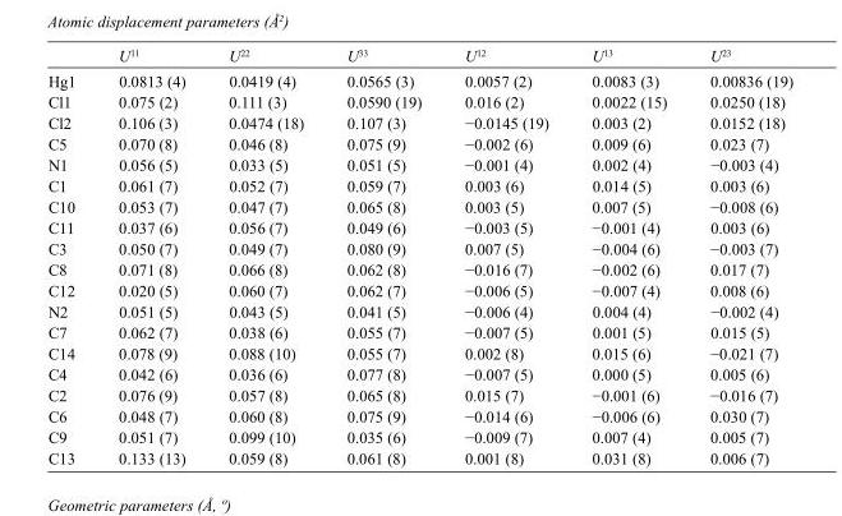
<table><thead><tr><td></td><td>U<sup>11</sup></td><td>U<sup>22</sup></td><td>U<sup>33</sup></td><td>U<sup>12</sup></td><td>U<sup>13</sup></td><td>U<sup>23</sup></td></tr></thead><tbody><tr><td>Hg1</td><td>0.0813 (4)</td><td>0.0419 (4)</td><td>0.0565 (3)</td><td>0.0057 (2)</td><td>0.0083 (3)</td><td>0.00836 (19)</td></tr><tr><td>Cl1</td><td>0.075 (2)</td><td>0.111 (3)</td><td>0.0590 (19)</td><td>0.016 (2)</td><td>0.0022 (15)</td><td>0.0250 (18)</td></tr><tr><td>Cl2</td><td>0.106 (3)</td><td>0.0474 (18)</td><td>0.107 (3)</td><td>−0.0145 (19)</td><td>0.003 (2)</td><td>0.0152 (18)</td></tr><tr><td>C5</td><td>0.070 (8)</td><td>0.046 (8)</td><td>0.075 (9)</td><td>−0.002 (6)</td><td>0.009 (6)</td><td>0.023 (7)</td></tr><tr><td>N1</td><td>0.056 (5)</td><td>0.033 (5)</td><td>0.051 (5)</td><td>−0.001 (4)</td><td>0.002 (4)</td><td>−0.003 (4)</td></tr><tr><td>C1</td><td>0.061 (7)</td><td>0.052 (7)</td><td>0.059 (7)</td><td>0.003 (6)</td><td>0.014 (5)</td><td>0.003 (6)</td></tr><tr><td>C10</td><td>0.053 (7)</td><td>0.047 (7)</td><td>0.065 (8)</td><td>0.003 (5)</td><td>0.007 (5)</td><td>−0.008 (6)</td></tr><tr><td>C11</td><td>0.037 (6)</td><td>0.056 (7)</td><td>0.049 (6)</td><td>−0.003 (5)</td><td>−0.001 (4)</td><td>0.003 (6)</td></tr><tr><td>C3</td><td>0.050 (7)</td><td>0.049 (7)</td><td>0.080 (9)</td><td>0.007 (5)</td><td>−0.004 (6)</td><td>−0.003 (7)</td></tr><tr><td>C8</td><td>0.071 (8)</td><td>0.066 (8)</td><td>0.062 (8)</td><td>−0.016 (7)</td><td>−0.002 (6)</td><td>0.017 (7)</td></tr><tr><td>C12</td><td>0.020 (5)</td><td>0.060 (7)</td><td>0.062 (7)</td><td>−0.006 (5)</td><td>−0.007 (4)</td><td>0.008 (6)</td></tr><tr><td>N2</td><td>0.051 (5)</td><td>0.043 (5)</td><td>0.041 (5)</td><td>−0.006 (4)</td><td>0.004 (4)</td><td>−0.002 (4)</td></tr><tr><td>C7</td><td>0.062 (7)</td><td>0.038 (6)</td><td>0.055 (7)</td><td>−0.007 (5)</td><td>0.001 (5)</td><td>0.015 (5)</td></tr><tr><td>C14</td><td>0.078 (9)</td><td>0.088 (10)</td><td>0.055 (7)</td><td>0.002 (8)</td><td>0.015 (6)</td><td>−0.021 (7)</td></tr><tr><td>C4</td><td>0.042 (6)</td><td>0.036 (6)</td><td>0.077 (8)</td><td>−0.007 (5)</td><td>0.000 (5)</td><td>0.005 (6)</td></tr><tr><td>C2</td><td>0.076 (9)</td><td>0.057 (8)</td><td>0.065 (8)</td><td>0.015 (7)</td><td>−0.001 (6)</td><td>−0.016 (7)</td></tr><tr><td>C6</td><td>0.048 (7)</td><td>0.060 (8)</td><td>0.075 (9)</td><td>−0.014 (6)</td><td>−0.006 (6)</td><td>0.030 (7)</td></tr><tr><td>C9</td><td>0.051 (7)</td><td>0.099 (10)</td><td>0.035 (6)</td><td>−0.009 (7)</td><td>0.007 (4)</td><td>0.005 (7)</td></tr><tr><td>C13</td><td>0.133 (13)</td><td>0.059 (8)</td><td>0.061 (8)</td><td>0.001 (8)</td><td>0.031 (8)</td><td>0.006 (7)</td></tr></tbody></table>